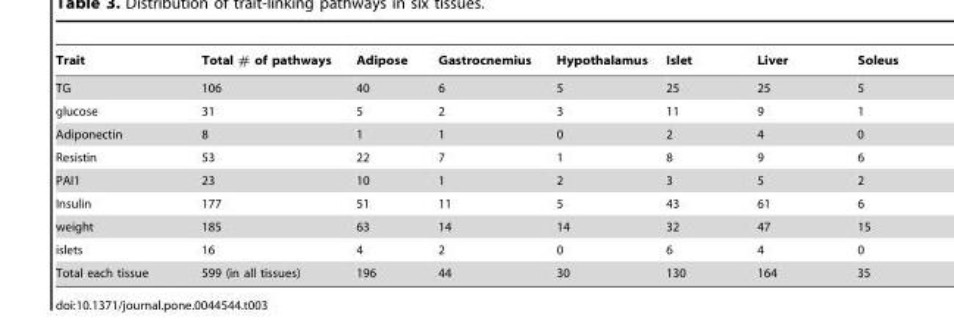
<table><thead><tr><td>Trait</td><td>Total # of pathways</td><td>Adipose</td><td>Gastrocnemius</td><td>Hypothalamus</td><td>Islet</td><td>Liver</td><td>Soleus</td></tr></thead><tbody><tr><td>TG</td><td>106</td><td>40</td><td>6</td><td>5</td><td>25</td><td>25</td><td>5</td></tr><tr><td>glucose</td><td>31</td><td>5</td><td>2</td><td>3</td><td>11</td><td>9</td><td>1</td></tr><tr><td>Adiponectin</td><td>8</td><td>1</td><td>1</td><td>0</td><td>2</td><td>4</td><td>0</td></tr><tr><td>Resistin</td><td>53</td><td>22</td><td>7</td><td>1</td><td>8</td><td>9</td><td>6</td></tr><tr><td>PAI1</td><td>23</td><td>10</td><td>1</td><td>2</td><td>3</td><td>5</td><td>2</td></tr><tr><td>Insulin</td><td>177</td><td>51</td><td>11</td><td>5</td><td>43</td><td>61</td><td>6</td></tr><tr><td>weight</td><td>185</td><td>63</td><td>14</td><td>14</td><td>32</td><td>47</td><td>15</td></tr><tr><td>islets</td><td>16</td><td>4</td><td>2</td><td>0</td><td>6</td><td>4</td><td>0</td></tr><tr><td>Total each tissue</td><td>599 (in all tissues)</td><td>196</td><td>44</td><td>30</td><td>130</td><td>164</td><td>35</td></tr></tbody></table>